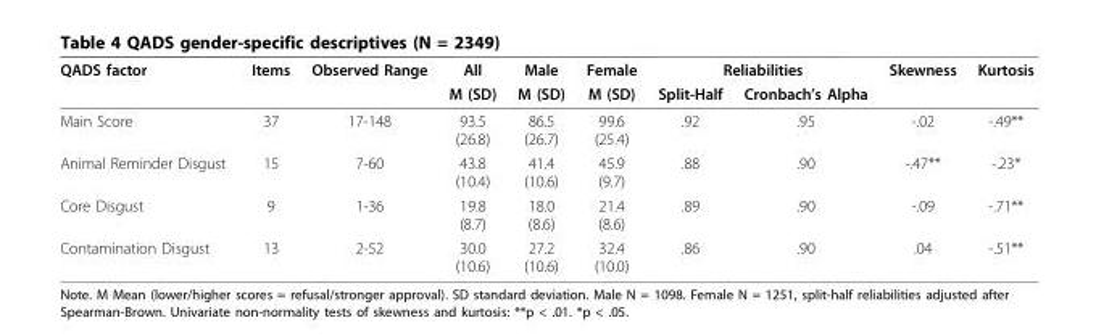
<table><thead><tr><td rowspan="2">QADS factor</td><td rowspan="2">Items</td><td rowspan="2">Observed Range</td><td rowspan="2">All M (SD)</td><td rowspan="2">Male M (SD)</td><td rowspan="2">Female M (SD)</td><td colspan="2">Reliabilities</td><td rowspan="2">Skewness</td><td rowspan="2">Kurtosis</td></tr><tr><td>Split-Half</td><td>Cronbach’s Alpha</td></tr></thead><tbody><tr><td>Main Score</td><td>37</td><td>17-148</td><td>93.5 (26.8)</td><td>86.5 (26.7)</td><td>99.6 (25.4)</td><td>.92</td><td>.95</td><td>-.02</td><td>-.49**</td></tr><tr><td>Animal Reminder Disgust</td><td>15</td><td>7-60</td><td>43.8 (10.4)</td><td>41.4 (10.6)</td><td>45.9 (9.7)</td><td>.88</td><td>.90</td><td>-.47**</td><td>-.23*</td></tr><tr><td>Core Disgust</td><td>9</td><td>1-36</td><td>19.8 (8.7)</td><td>18.0 (8.6)</td><td>21.4 (8.6)</td><td>.89</td><td>.90</td><td>-.09</td><td>-.71**</td></tr><tr><td>Contamination Disgust</td><td>13</td><td>2-52</td><td>30.0 (10.6)</td><td>27.2 (10.6)</td><td>32.4 (10.0)</td><td>.86</td><td>.90</td><td>.04</td><td>-.51**</td></tr></tbody></table>